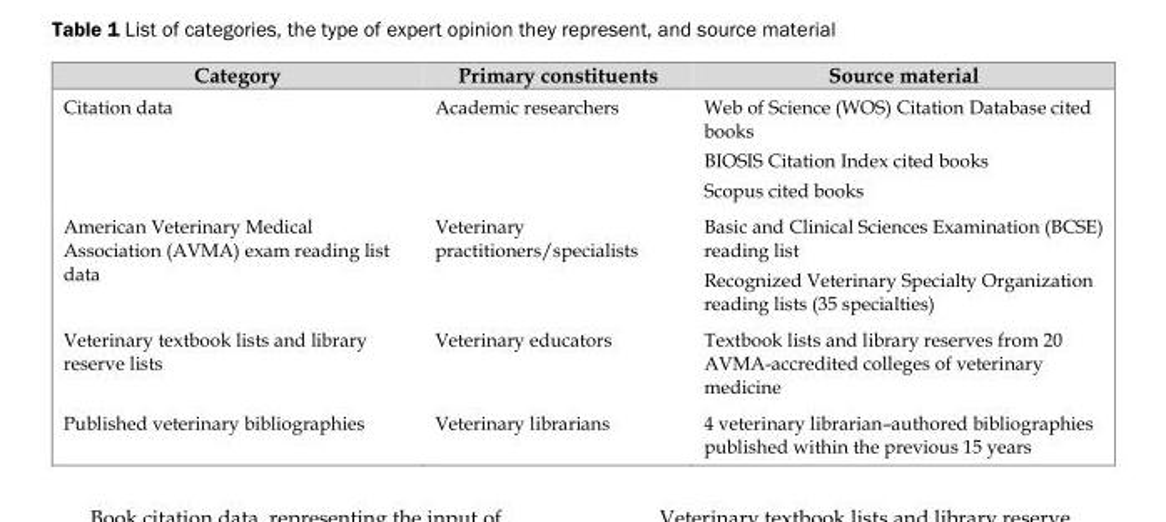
<table><thead><tr><td>Category</td><td>Primary constituents</td><td>Source material</td></tr></thead><tbody><tr><td>Citation data</td><td>Academic researchers</td><td>Web of Science (WOS) Citation Database cited books BIOSIS Citation Index cited books Scopus cited books</td></tr><tr><td>American Veterinary Medical Association (AVMA) exam reading list data</td><td>Veterinary practitioners/specialists</td><td>Basic and Clinical Sciences Examination (BCSE) reading list Recognized Veterinary Specialty Organization reading lists (35 specialties)</td></tr><tr><td>Veterinary textbook lists and library reserve lists</td><td>Veterinary educators</td><td>Textbook lists and library reserves from 20 AVMA-accredited colleges of veterinary medicine</td></tr><tr><td>Published veterinary bibliographies</td><td>Veterinary librarians</td><td>4 veterinary librarian–authored bibliographies published within the previous 15 years</td></tr></tbody></table>